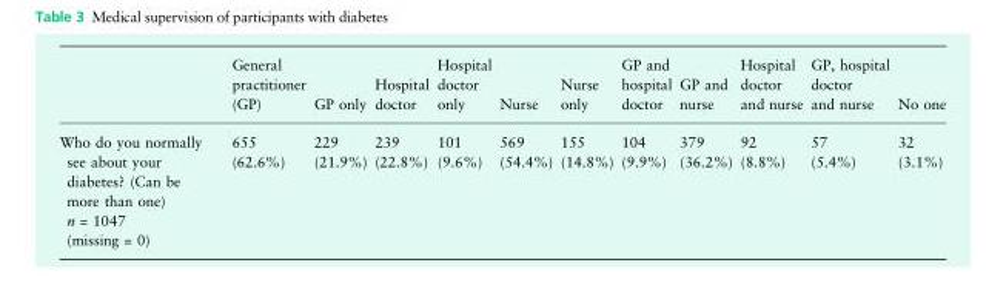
<table><thead><tr><td></td><td>General practitioner (GP)</td><td>GP only</td><td>Hospital doctor</td><td>Hospital doctor only</td><td>Nurse</td><td>Nurse only</td><td>GP and hospital doctor</td><td>GP and nurse</td><td>Hospital doctor and nurse</td><td>GP, hospital doctor and nurse</td><td>No one</td></tr></thead><tbody><tr><td>Who do you normally see about your diabetes? (Can be more than one) n = 1047 (missing = 0)</td><td>655 (62.6%)</td><td>229 (21.9%)</td><td>239 (22.8%)</td><td>101 (9.6%)</td><td>569 (54.4%)</td><td>155 (14.8%)</td><td>104 (9.9%)</td><td>379 (36.2%)</td><td>92 (8.8%)</td><td>57 (5.4%)</td><td>32 (3.1%)</td></tr></tbody></table>